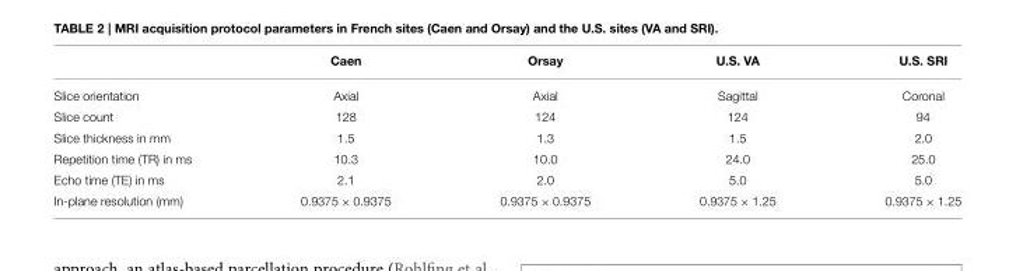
<table><thead><tr><td></td><td>Caen</td><td>Orsay</td><td>U.S. VA</td><td>U.S. SRI</td></tr></thead><tbody><tr><td>Slice orientation</td><td>Axial</td><td>Axial</td><td>Sagittal</td><td>Coronal</td></tr><tr><td>Slice count</td><td>128</td><td>124</td><td>124</td><td>94</td></tr><tr><td>Slice thickness in mm</td><td>1.5</td><td>1.3</td><td>1.5</td><td>2.0</td></tr><tr><td>Repetition time (TR) in ms</td><td>10.3</td><td>10.0</td><td>24.0</td><td>25.0</td></tr><tr><td>Echo time (TE) in ms</td><td>2.1</td><td>2.0</td><td>5.0</td><td>5.0</td></tr><tr><td>In-plane resolution (mm)</td><td>0.9375 × 0.9375</td><td>0.9375 × 0.9375</td><td>0.9375 × 1.25</td><td>0.9375 × 1.25</td></tr></tbody></table>